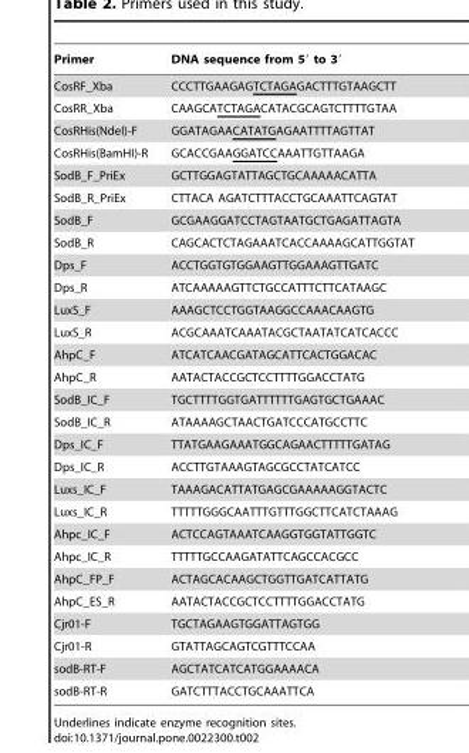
<table><thead><tr><td>Primer</td><td>DNA sequence from 5′ to 3′</td></tr></thead><tbody><tr><td>CosRF_Xba</td><td>CCCTTGAAGAGTCTAGAGACTTTGTAAGCTT</td></tr><tr><td>CosRR_Xba</td><td>CAAGCATCTAGACATACGCAGTCTTTTGTAA</td></tr><tr><td>CosRHis(NdeI)-F</td><td>GGATAGAACATATGAGAATTTTAGTTAT</td></tr><tr><td>CosRHis(BamHI)-R</td><td>GCACCGAAGGATCCAAATTGTTAAGA</td></tr><tr><td>SodB_F_PriEx</td><td>GCTTGGAGTATTAGCTGCAAAAACATTA</td></tr><tr><td>SodB_R_PriEx</td><td>CTTACA AGATCTTTACCTGCAAATTCAGTAT</td></tr><tr><td>SodB_F</td><td>GCGAAGGATCCTAGTAATGCTGAGATTAGTA</td></tr><tr><td>SodB_R</td><td>CAGCACTCTAGAAATCACCAAAAGCATTGGTAT</td></tr><tr><td>Dps_F</td><td>ACCTGGTGTGGAAGTTGGAAAGTTGATC</td></tr><tr><td>Dps_R</td><td>ATCAAAAAGTTCTGCCATTTCTTCATAAGC</td></tr><tr><td>LuxS_F</td><td>AAAGCTCCTGGTAAGGCCAAACAAGTG</td></tr><tr><td>LuxS_R</td><td>ACGCAAATCAAATACGCTAATATCATCACCC</td></tr><tr><td>AhpC_F</td><td>ATCATCAACGATAGCATTCACTGGACAC</td></tr><tr><td>AhpC_R</td><td>AATACTACCGCTCCTTTTGGACCTATG</td></tr><tr><td>SodB_IC_F</td><td>TGCTTTTGGTGATTTTTTGAGTGCTGAAAC</td></tr><tr><td>SodB_IC_R</td><td>ATAAAAGCTAACTGATCCCATGCCTTC</td></tr><tr><td>Dps_IC_F</td><td>TTATGAAGAAATGGCAGAACTTTTTGATAG</td></tr><tr><td>Dps_IC_R</td><td>ACCTTGTAAAGTAGCGCCTATCATCC</td></tr><tr><td>Luxs_IC_F</td><td>TAAAGACATTATGAGCGAAAAAGGTACTC</td></tr><tr><td>Luxs_IC_R</td><td>TTTTTGGGCAATTTGTTTGGCTTCATCTAAAG</td></tr><tr><td>Ahpc_IC_F</td><td>ACTCCAGTAAATCAAGGTGGTATTGGTC</td></tr><tr><td>Ahpc_IC_R</td><td>TTTTTGCCAAGATATTCAGCCACGCC</td></tr><tr><td>AhpC_FP_F</td><td>ACTAGCACAAGCTGGTTGATCATTATG</td></tr><tr><td>AhpC_ES_R</td><td>AATACTACCGCTCCTTTTGGACCTATG</td></tr><tr><td>Cjr01-F</td><td>TGCTAGAAGTGGATTAGTGG</td></tr><tr><td>Cjr01-R</td><td>GTATTAGCAGTCGTTTCCAA</td></tr><tr><td>sodB-RT-F</td><td>AGCTATCATCATGGAAAACA</td></tr><tr><td>sodB-RT-R</td><td>GATCTTTACCTGCAAATTCA</td></tr></tbody></table>